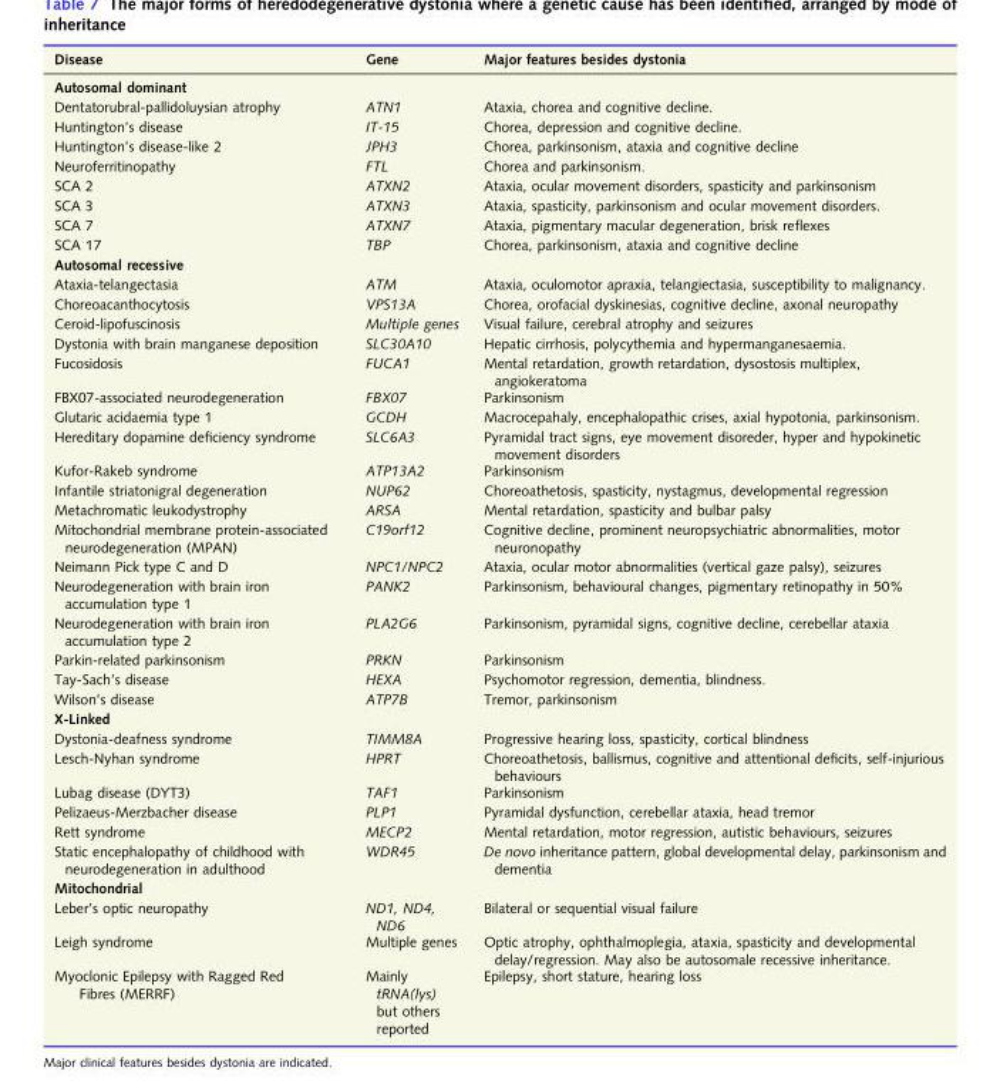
<table><thead><tr><td>Disease</td><td>Gene</td><td>Major features besides dystonia</td></tr></thead><tbody><tr><td colspan="3">Autosomal dominant</td></tr><tr><td>Dentatorubral-pallidoluysian atrophy</td><td>ATN1</td><td>Ataxia, chorea and cognitive decline.</td></tr><tr><td>Huntington’s disease</td><td>IT-15</td><td>Chorea, depression and cognitive decline.</td></tr><tr><td>Huntington’s disease-like 2</td><td>JPH3</td><td>Chorea, parkinsonism, ataxia and cognitive decline</td></tr><tr><td>Neuroferritinopathy</td><td>FTL</td><td>Chorea and parkinsonism.</td></tr><tr><td>SCA 2</td><td>ATXN2</td><td>Ataxia, ocular movement disorders, spasticity and parkinsonism</td></tr><tr><td>SCA 3</td><td>ATXN3</td><td>Ataxia, spasticity, parkinsonism and ocular movement disorders.</td></tr><tr><td>SCA 7</td><td>ATXN7</td><td>Ataxia, pigmentary macular degeneration, brisk reflexes</td></tr><tr><td>SCA 17</td><td>TBP</td><td>Chorea, parkinsonism, ataxia and cognitive decline</td></tr><tr><td colspan="3">Autosomal recessive</td></tr><tr><td>Ataxia-telangectasia</td><td>ATM</td><td>Ataxia, oculomotor apraxia, telangiectasia, susceptibility to malignancy.</td></tr><tr><td>Choreoacanthocytosis</td><td>VPS13A</td><td>Chorea, orofacial dyskinesias, cognitive decline, axonal neuropathy</td></tr><tr><td>Ceroid-lipofuscinosis</td><td>Multiple genes</td><td>Visual failure, cerebral atrophy and seizures</td></tr><tr><td>Dystonia with brain manganese deposition</td><td>SLC30A10</td><td>Hepatic cirrhosis, polycythemia and hypermanganesaemia.</td></tr><tr><td>Fucosidosis</td><td>FUCA1</td><td>Mental retardation, growth retardation, dysostosis multiplex, angiokeratoma</td></tr><tr><td>FBX07-associated neurodegeneration</td><td>FBX07</td><td>Parkinsonism</td></tr><tr><td>Glutaric acidaemia type 1</td><td>GCDH</td><td>Macrocepahaly, encephalopathic crises, axial hypotonia, parkinsonism.</td></tr><tr><td>Hereditary dopamine deficiency syndrome</td><td>SLC6A3</td><td>Pyramidal tract signs, eye movement disoreder, hyper and hypokinetic movement disorders</td></tr><tr><td>Kufor-Rakeb syndrome</td><td>ATP13A2</td><td>Parkinsonism</td></tr><tr><td>Infantile striatonigral degeneration</td><td>NUP62</td><td>Choreoathetosis, spasticity, nystagmus, developmental regression</td></tr><tr><td>Metachromatic leukodystrophy</td><td>ARSA</td><td>Mental retardation, spasticity and bulbar palsy</td></tr><tr><td>Mitochondrial membrane protein-associated neurodegeneration (MPAN)</td><td>C19orf12</td><td>Cognitive decline, prominent neuropsychiatric abnormalities, motor neuronopathy</td></tr><tr><td>Neimann Pick type C and D</td><td>NPC1/NPC2</td><td>Ataxia, ocular motor abnormalities (vertical gaze palsy), seizures</td></tr><tr><td>Neurodegeneration with brain iron accumulation type 1</td><td>PANK2</td><td>Parkinsonism, behavioural changes, pigmentary retinopathy in 50%</td></tr><tr><td>Neurodegeneration with brain iron accumulation type 2</td><td>PLA2G6</td><td>Parkinsonism, pyramidal signs, cognitive decline, cerebellar ataxia</td></tr><tr><td>Parkin-related parkinsonism</td><td>PRKN</td><td>Parkinsonism</td></tr><tr><td>Tay-Sach’s disease</td><td>HEXA</td><td>Psychomotor regression, dementia, blindness.</td></tr><tr><td>Wilson’s disease</td><td>ATP7B</td><td>Tremor, parkinsonism</td></tr><tr><td colspan="3">X-Linked</td></tr><tr><td>Dystonia-deafness syndrome</td><td>TIMM8A</td><td>Progressive hearing loss, spasticity, cortical blindness</td></tr><tr><td>Lesch-Nyhan syndrome</td><td>HPRT</td><td>Choreoathetosis, ballismus, cognitive and attentional deficits, self-injurious behaviours</td></tr><tr><td>Lubag disease (DYT3)</td><td>TAF1</td><td>Parkinsonism</td></tr><tr><td>Pelizaeus-Merzbacher disease</td><td>PLP1</td><td>Pyramidal dysfunction, cerebellar ataxia, head tremor</td></tr><tr><td>Rett syndrome</td><td>MECP2</td><td>Mental retardation, motor regression, autistic behaviours, seizures</td></tr><tr><td>Static encephalopathy of childhood with neurodegeneration in adulthood</td><td>WDR45</td><td>De novo inheritance pattern, global developmental delay, parkinsonism and dementia</td></tr><tr><td colspan="3">Mitochondrial</td></tr><tr><td>Leber’s optic neuropathy</td><td>ND1, ND4, ND6</td><td>Bilateral or sequential visual failure</td></tr><tr><td>Leigh syndrome</td><td>Multiple genes</td><td>Optic atrophy, ophthalmoplegia, ataxia, spasticity and developmental delay/regression. May also be autosomale recessive inheritance.</td></tr><tr><td>Myoclonic Epilepsy with Ragged Red Fibres (MERRF)</td><td>Mainly tRNA(lys) but others reported</td><td>Epilepsy, short stature, hearing loss</td></tr></tbody></table>